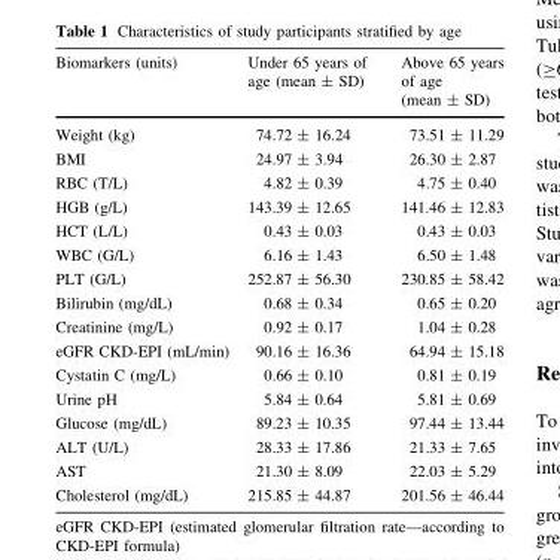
<table><thead><tr><td>Biomarkers (units)</td><td>Under 65 years of age (mean ± SD)</td><td>Above 65 years of age (mean ± SD)</td></tr></thead><tbody><tr><td>Weight (kg)</td><td>74.72 ± 16.24</td><td>73.51 ± 11.29</td></tr><tr><td>BMI</td><td>24.97 ± 3.94</td><td>26.30 ± 2.87</td></tr><tr><td>RBC (T/L)</td><td>4.82 ± 0.39</td><td>4.75 ± 0.40</td></tr><tr><td>HGB (g/L)</td><td>143.39 ± 12.65</td><td>141.46 ± 12.83</td></tr><tr><td>HCT (L/L)</td><td>0.43 ± 0.03</td><td>0.43 ± 0.03</td></tr><tr><td>WBC (G/L)</td><td>6.16 ± 1.43</td><td>6.50 ± 1.48</td></tr><tr><td>PLT (G/L)</td><td>252.87 ± 56.30</td><td>230.85 ± 58.42</td></tr><tr><td>Bilirubin (mg/dL)</td><td>0.68 ± 0.34</td><td>0.65 ± 0.20</td></tr><tr><td>Creatinine (mg/L)</td><td>0.92 ± 0.17</td><td>1.04 ± 0.28</td></tr><tr><td>eGFR CKD-EPI (mL/min)</td><td>90.16 ± 16.36</td><td>64.94 ± 15.18</td></tr><tr><td>Cystatin C (mg/L)</td><td>0.66 ± 0.10</td><td>0.81 ± 0.19</td></tr><tr><td>Urine pH</td><td>5.84 ± 0.64</td><td>5.81 ± 0.69</td></tr><tr><td>Glucose (mg/dL)</td><td>89.23 ± 10.35</td><td>97.44 ± 13.44</td></tr><tr><td>ALT (U/L)</td><td>28.33 ± 17.86</td><td>21.33 ± 7.65</td></tr><tr><td>AST</td><td>21.30 ± 8.09</td><td>22.03 ± 5.29</td></tr><tr><td>Cholesterol (mg/dL)</td><td>215.85 ± 44.87</td><td>201.56 ± 46.44</td></tr></tbody></table>